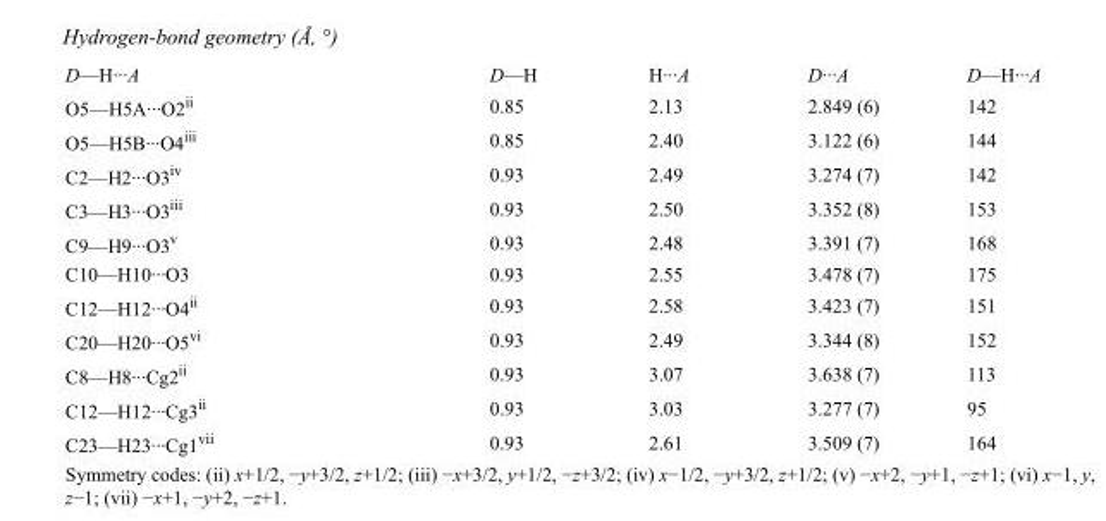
<table><tbody><tr><td>D—H···A</td><td>D—H</td><td>H···A</td><td>D···A</td><td>D—H···A</td></tr><tr><td>O5—H5A···O2<sup>ii</sup></td><td>0.85</td><td>2.13</td><td>2.849 (6)</td><td>142</td></tr><tr><td>O5—H5B···O4<sup>iii</sup></td><td>0.85</td><td>2.40</td><td>3.122 (6)</td><td>144</td></tr><tr><td>C2—H2···O3<sup>iv</sup></td><td>0.93</td><td>2.49</td><td>3.274 (7)</td><td>142</td></tr><tr><td>C3—H3···O3<sup>iii</sup></td><td>0.93</td><td>2.50</td><td>3.352 (8)</td><td>153</td></tr><tr><td>C9—H9···O3<sup>v</sup></td><td>0.93</td><td>2.48</td><td>3.391 (7)</td><td>168</td></tr><tr><td>C10—H10···O3</td><td>0.93</td><td>2.55</td><td>3.478 (7)</td><td>175</td></tr><tr><td>C12—H12···O4<sup>ii</sup></td><td>0.93</td><td>2.58</td><td>3.423 (7)</td><td>151</td></tr><tr><td>C20—H20···O5<sup>vi</sup></td><td>0.93</td><td>2.49</td><td>3.344 (8)</td><td>152</td></tr><tr><td>C8—H8···Cg2<sup>ii</sup></td><td>0.93</td><td>3.07</td><td>3.638 (7)</td><td>113</td></tr><tr><td>C12—H12···Cg3<sup>ii</sup></td><td>0.93</td><td>3.03</td><td>3.277 (7)</td><td>95</td></tr><tr><td>C23—H23···Cg1<sup>vii</sup></td><td>0.93</td><td>2.61</td><td>3.509 (7)</td><td>164</td></tr></tbody></table>